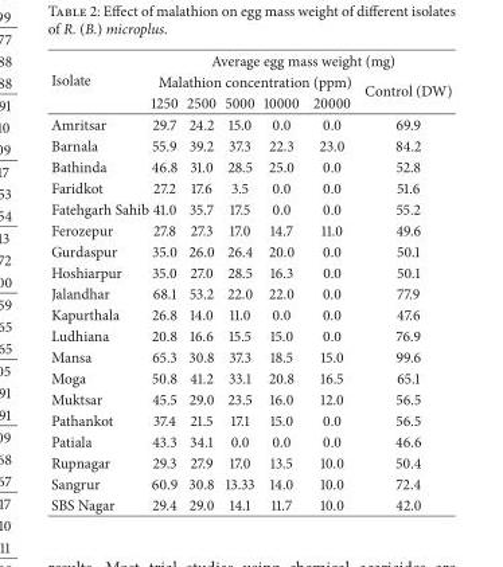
<table><thead><tr><td rowspan="3">Isolate</td><td colspan="6">Average egg mass weight (mg)</td></tr><tr><td colspan="5">Malathion concentration (ppm)</td><td rowspan="2">Control (DW)</td></tr><tr><td>1250</td><td>2500</td><td>5000</td><td>10000</td><td>20000</td></tr></thead><tbody><tr><td>Amritsar</td><td>29.7</td><td>24.2</td><td>15.0</td><td>0.0</td><td>0.0</td><td>69.9</td></tr><tr><td>Barnala</td><td>55.9</td><td>39.2</td><td>37.3</td><td>22.3</td><td>23.0</td><td>84.2</td></tr><tr><td>Bathinda</td><td>46.8</td><td>31.0</td><td>28.5</td><td>25.0</td><td>0.0</td><td>52.8</td></tr><tr><td>Faridkot</td><td>27.2</td><td>17.6</td><td>3.5</td><td>0.0</td><td>0.0</td><td>51.6</td></tr><tr><td>Fatehgarh Sahib</td><td>41.0</td><td>35.7</td><td>17.5</td><td>0.0</td><td>0.0</td><td>55.2</td></tr><tr><td>Ferozepur</td><td>27.8</td><td>27.3</td><td>17.0</td><td>14.7</td><td>11.0</td><td>49.6</td></tr><tr><td>Gurdaspur</td><td>35.0</td><td>26.0</td><td>26.4</td><td>20.0</td><td>0.0</td><td>50.1</td></tr><tr><td>Hoshiarpur</td><td>35.0</td><td>27.0</td><td>28.5</td><td>16.3</td><td>0.0</td><td>50.1</td></tr><tr><td>Jalandhar</td><td>68.1</td><td>53.2</td><td>22.0</td><td>22.0</td><td>0.0</td><td>77.9</td></tr><tr><td>Kapurthala</td><td>26.8</td><td>14.0</td><td>11.0</td><td>0.0</td><td>0.0</td><td>47.6</td></tr><tr><td>Ludhiana</td><td>20.8</td><td>16.6</td><td>15.5</td><td>15.0</td><td>0.0</td><td>76.9</td></tr><tr><td>Mansa</td><td>65.3</td><td>30.8</td><td>37.3</td><td>18.5</td><td>15.0</td><td>99.6</td></tr><tr><td>Moga</td><td>50.8</td><td>41.2</td><td>33.1</td><td>20.8</td><td>16.5</td><td>65.1</td></tr><tr><td>Muktsar</td><td>45.5</td><td>29.0</td><td>23.5</td><td>16.0</td><td>12.0</td><td>56.5</td></tr><tr><td>Pathankot</td><td>37.4</td><td>21.5</td><td>17.1</td><td>15.0</td><td>0.0</td><td>56.5</td></tr><tr><td>Patiala</td><td>43.3</td><td>34.1</td><td>0.0</td><td>0.0</td><td>0.0</td><td>46.6</td></tr><tr><td>Rupnagar</td><td>29.3</td><td>27.9</td><td>17.0</td><td>13.5</td><td>10.0</td><td>50.4</td></tr><tr><td>Sangrur</td><td>60.9</td><td>30.8</td><td>13.33</td><td>14.0</td><td>10.0</td><td>72.4</td></tr><tr><td>SBS Nagar</td><td>29.4</td><td>29.0</td><td>14.1</td><td>11.7</td><td>10.0</td><td>42.0</td></tr></tbody></table>